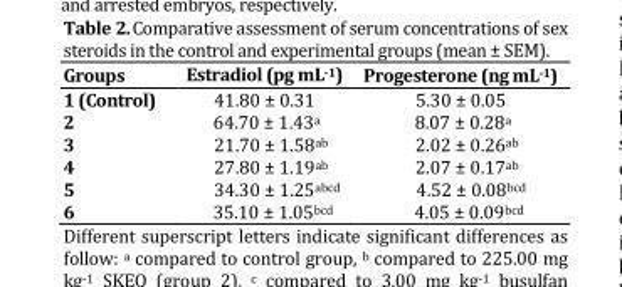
<table><thead><tr><td>Groups</td><td>Estradiol (pg mL<sup>-1</sup>)</td><td>Progesterone (ng mL<sup>-1</sup>)</td></tr></thead><tbody><tr><td>1 (Control)</td><td>41.80 ± 0.31</td><td>5.30 ± 0.05</td></tr><tr><td>2</td><td>64.70 ± 1.43<sup>a</sup></td><td>8.07 ± 0.28<sup>a</sup></td></tr><tr><td>3</td><td>21.70 ± 1.58<sup>ab</sup></td><td>2.02 ± 0.26<sup>ab</sup></td></tr><tr><td>4</td><td>27.80 ± 1.19<sup>ab</sup></td><td>2.07 ± 0.17<sup>ab</sup></td></tr><tr><td>5</td><td>34.30 ± 1.25<sup>abcd</sup></td><td>4.52 ± 0.08<sup>bcd</sup></td></tr><tr><td>6</td><td>35.10 ± 1.05<sup>bcd</sup></td><td>4.05 ± 0.09<sup>bcd</sup></td></tr></tbody></table>